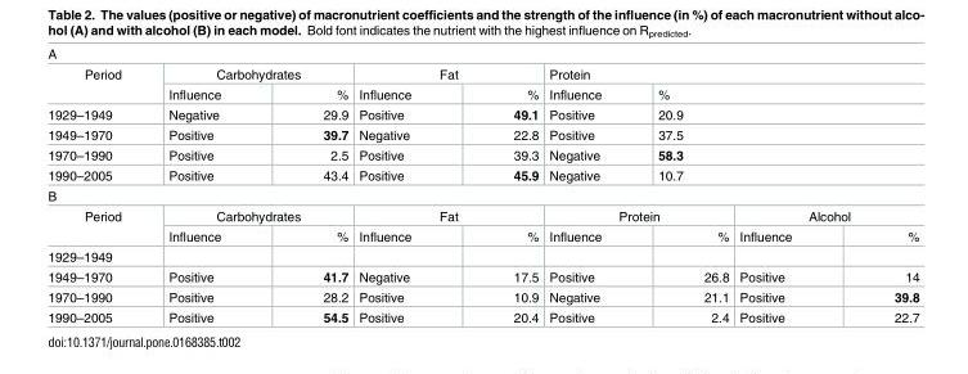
<table><tbody><tr><td colspan="9">A</td></tr><tr><td rowspan="2">Period</td><td colspan="2">Carbohydrates</td><td colspan="2">Fat</td><td colspan="4">Protein</td></tr><tr><td>Influence</td><td>%</td><td>Influence</td><td>%</td><td>Influence</td><td colspan="3">%</td></tr><tr><td>1929–1949</td><td>Negative</td><td>29.9</td><td>Positive</td><td>49.1</td><td>Positive</td><td colspan="3">20.9</td></tr><tr><td>1949–1970</td><td>Positive</td><td>39.7</td><td>Negative</td><td>22.8</td><td>Positive</td><td colspan="3">37.5</td></tr><tr><td>1970–1990</td><td>Positive</td><td>2.5</td><td>Positive</td><td>39.3</td><td>Negative</td><td colspan="3">58.3</td></tr><tr><td>1990–2005</td><td>Positive</td><td>43.4</td><td>Positive</td><td>45.9</td><td>Negative</td><td colspan="3">10.7</td></tr><tr><td colspan="9">B</td></tr><tr><td rowspan="2">Period</td><td colspan="2">Carbohydrates</td><td colspan="2">Fat</td><td colspan="2">Protein</td><td colspan="2">Alcohol</td></tr><tr><td>Influence</td><td>%</td><td>Influence</td><td>%</td><td>Influence</td><td>%</td><td>Influence</td><td>%</td></tr><tr><td colspan="9">1929–1949</td></tr><tr><td>1949–1970</td><td>Positive</td><td>41.7</td><td>Negative</td><td>17.5</td><td>Positive</td><td>26.8</td><td>Positive</td><td>14</td></tr><tr><td>1970–1990</td><td>Positive</td><td>28.2</td><td>Positive</td><td>10.9</td><td>Negative</td><td>21.1</td><td>Positive</td><td>39.8</td></tr><tr><td>1990–2005</td><td>Positive</td><td>54.5</td><td>Positive</td><td>20.4</td><td>Positive</td><td>2.4</td><td>Positive</td><td>22.7</td></tr></tbody></table>